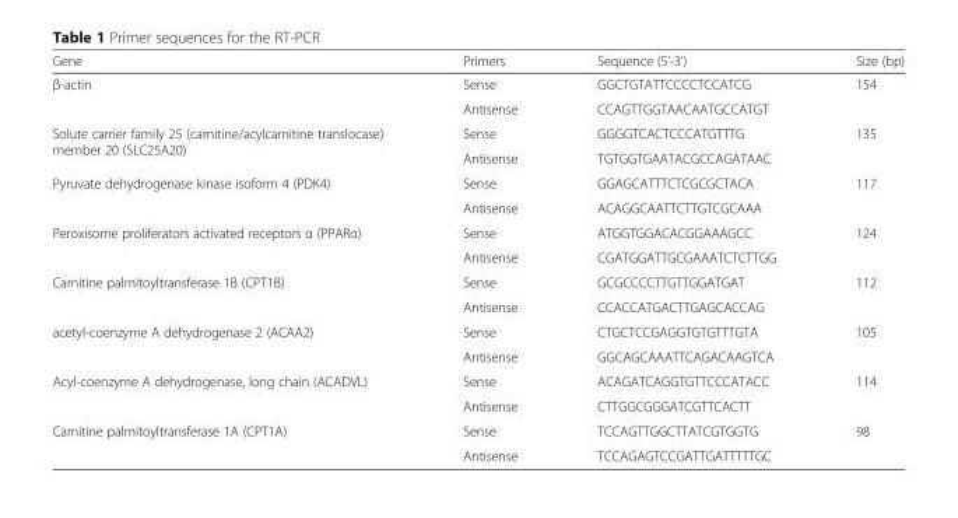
<table><thead><tr><td>Gene</td><td>Primers</td><td>Sequence (5’-3’)</td><td>Size (bp)</td></tr></thead><tbody><tr><td rowspan="2">β-actin</td><td>Sense</td><td>GGCTGTATTCCCCTCCATCG</td><td rowspan="2">154</td></tr><tr><td>Antisense</td><td>CCAGTTGGTAACAATGCCATGT</td></tr><tr><td rowspan="2">Solute carrier family 25 (carnitine/acylcarnitine translocase) member 20 (SLC25A20)</td><td>Sense</td><td>GGGGTCACTCCCATGTTTG</td><td rowspan="2">135</td></tr><tr><td>Antisense</td><td>TGTGGTGAATACGCCAGATAAC</td></tr><tr><td rowspan="2">Pyruvate dehydrogenase kinase isoform 4 (PDK4)</td><td>Sense</td><td>GGAGCATTTCTCGCGCTACA</td><td rowspan="2">117</td></tr><tr><td>Antisense</td><td>ACAGGCAATTCTTGTCGCAAA</td></tr><tr><td rowspan="2">Peroxisome proliferators activated receptors α (PPARα)</td><td>Sense</td><td>ATGGTGGACACGGAAAGCC</td><td rowspan="2">124</td></tr><tr><td>Antisense</td><td>CGATGGATTGCGAAATCTCTTGG</td></tr><tr><td rowspan="2">Carnitine palmitoyltransferase 1B (CPT1B)</td><td>Sense</td><td>GCGCCCCTTGTTGGATGAT</td><td rowspan="2">112</td></tr><tr><td>Antisense</td><td>CCACCATGACTTGAGCACCAG</td></tr><tr><td rowspan="2">acetyl-coenzyme A dehydrogenase 2 (ACAA2)</td><td>Sense</td><td>CTGCTCCGAGGTGTGTTTGTA</td><td rowspan="2">105</td></tr><tr><td>Antisense</td><td>GGCAGCAAATTCAGACAAGTCA</td></tr><tr><td rowspan="2">Acyl-coenzyme A dehydrogenase, long chain (ACADVL)</td><td>Sense</td><td>ACAGATCAGGTGTTCCCATACC</td><td rowspan="2">114</td></tr><tr><td>Antisense</td><td>CTTGGCGGGATCGTTCACTT</td></tr><tr><td rowspan="2">Carnitine palmitoyltransferase 1A (CPT1A)</td><td>Sense</td><td>TCCAGTTGGCTTATCGTGGTG</td><td rowspan="2">98</td></tr><tr><td>Antisense</td><td>TCCAGAGTCCGATTGATTTTTGC</td></tr></tbody></table>